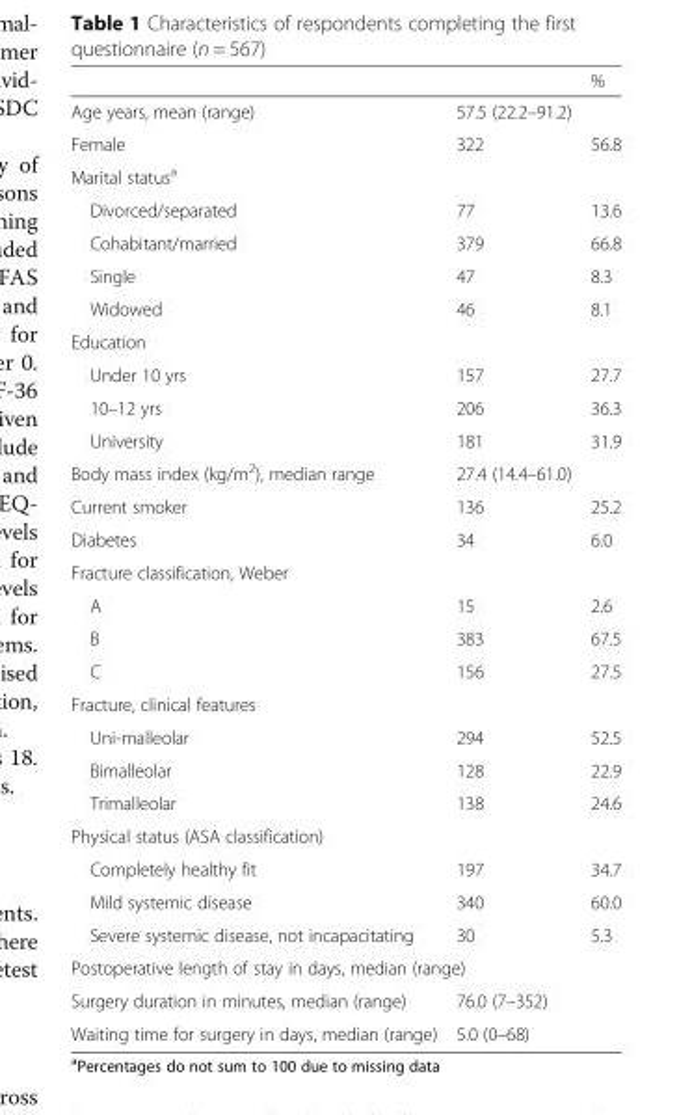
<table><thead><tr><td></td><td></td><td>%</td></tr></thead><tbody><tr><td>Age years, mean (range)</td><td>57.5 (22.2–91.2)</td><td></td></tr><tr><td>Female</td><td>322</td><td>56.8</td></tr><tr><td colspan="3">Marital status<sup>a</sup></td></tr><tr><td>Divorced/separated</td><td>77</td><td>13.6</td></tr><tr><td>Cohabitant/married</td><td>379</td><td>66.8</td></tr><tr><td>Single</td><td>47</td><td>8.3</td></tr><tr><td>Widowed</td><td>46</td><td>8.1</td></tr><tr><td colspan="3">Education</td></tr><tr><td>Under 10 yrs</td><td>157</td><td>27.7</td></tr><tr><td>10–12 yrs</td><td>206</td><td>36.3</td></tr><tr><td>University</td><td>181</td><td>31.9</td></tr><tr><td>Body mass index (kg/m<sup>2</sup>), median range</td><td>27.4 (14.4–61.0)</td><td></td></tr><tr><td>Current smoker</td><td>136</td><td>25.2</td></tr><tr><td>Diabetes</td><td>34</td><td>6.0</td></tr><tr><td colspan="3">Fracture classification, Weber</td></tr><tr><td>A</td><td>15</td><td>2.6</td></tr><tr><td>B</td><td>383</td><td>67.5</td></tr><tr><td>C</td><td>156</td><td>27.5</td></tr><tr><td colspan="3">Fracture, clinical features</td></tr><tr><td>Uni-malleolar</td><td>294</td><td>52.5</td></tr><tr><td>Bimalleolar</td><td>128</td><td>22.9</td></tr><tr><td>Trimalleolar</td><td>138</td><td>24.6</td></tr><tr><td colspan="3">Physical status (ASA classification)</td></tr><tr><td>Completely healthy fit</td><td>197</td><td>34.7</td></tr><tr><td>Mild systemic disease</td><td>340</td><td>60.0</td></tr><tr><td>Severe systemic disease, not incapacitating</td><td>30</td><td>5.3</td></tr><tr><td colspan="3">Postoperative length of stay in days, median (range)</td></tr><tr><td>Surgery duration in minutes, median (range)</td><td>76.0 (7–352)</td><td></td></tr><tr><td>Waiting time for surgery in days, median (range)</td><td>5.0 (0–68)</td><td></td></tr></tbody></table>